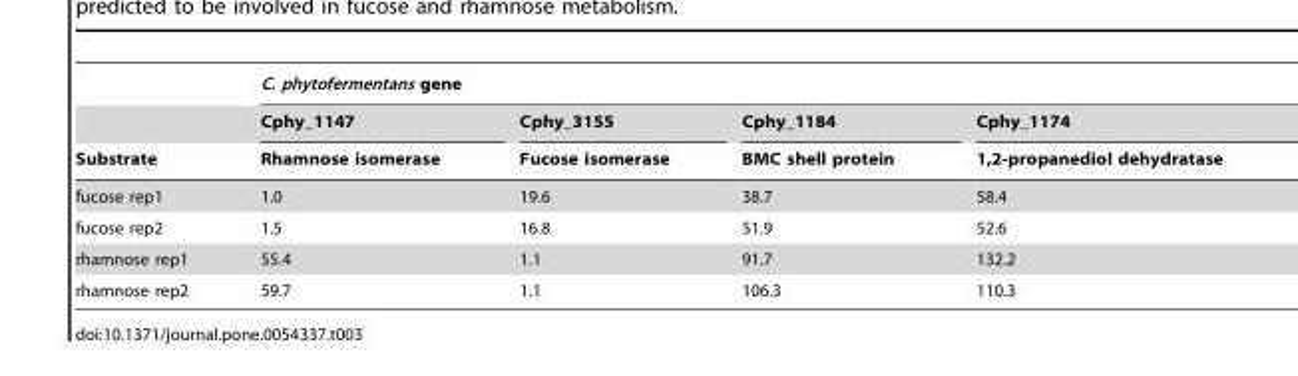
<table><thead><tr><td rowspan="3">Substrate</td><td colspan="4">C. phytofermentans gene</td></tr><tr><td rowspan="2">Cphy_1147 Rhamnose isomerase</td><td rowspan="2">Cphy_3155 Fucose isomerase</td><td rowspan="2">Cphy_1184 BMC shell protein</td><td rowspan="2">Cphy_1174 1,2-propanediol dehydratase</td></tr><tr></tr></thead><tbody><tr><td>fucose rep1</td><td>1.0</td><td>19.6</td><td>38.7</td><td>58.4</td></tr><tr><td>fucose rep2</td><td>1.5</td><td>16.8</td><td>51.9</td><td>52.6</td></tr><tr><td>rhamnose rep1</td><td>55.4</td><td>1.1</td><td>91.7</td><td>132.2</td></tr><tr><td>rhamnose rep2</td><td>59.7</td><td>1.1</td><td>106.3</td><td>110.3</td></tr></tbody></table>